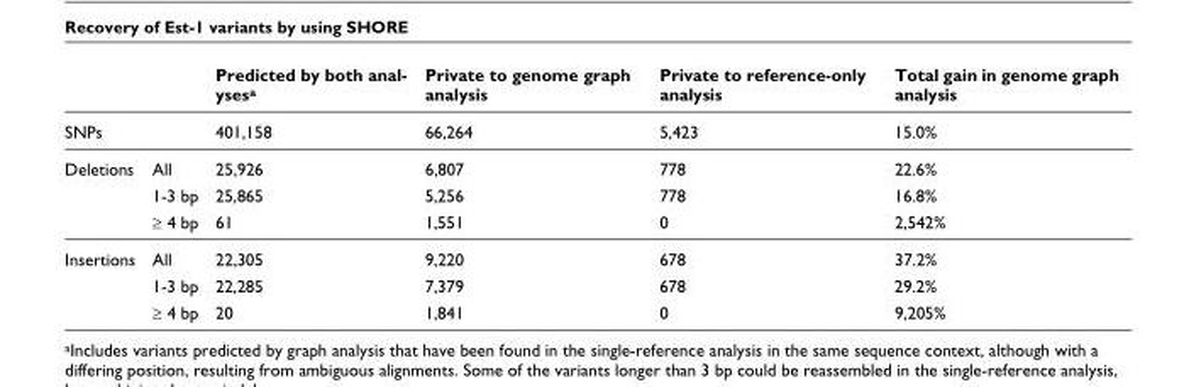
<table><thead><tr><td></td><td></td><td>Predicted by both anal- ysesa</td><td>Private to genome graph analysis</td><td>Private to reference-only analysis</td><td>Total gain in genome graph analysis</td></tr></thead><tbody><tr><td>SNPs</td><td></td><td>401,158</td><td>66,264</td><td>5,423</td><td>15.0%</td></tr><tr><td rowspan="3">Deletions</td><td>All</td><td>25,926</td><td>6,807</td><td>778</td><td>22.6%</td></tr><tr><td>1-3 bp</td><td>25,865</td><td>5,256</td><td>778</td><td>16.8%</td></tr><tr><td>≥ 4 bp</td><td>61</td><td>1,551</td><td>0</td><td>2,542%</td></tr><tr><td rowspan="3">Insertions</td><td>All</td><td>22,305</td><td>9,220</td><td>678</td><td>37.2%</td></tr><tr><td>1-3 bp</td><td>22,285</td><td>7,379</td><td>678</td><td>29.2%</td></tr><tr><td>≥ 4 bp</td><td>20</td><td>1,841</td><td>0</td><td>9,205%</td></tr></tbody></table>